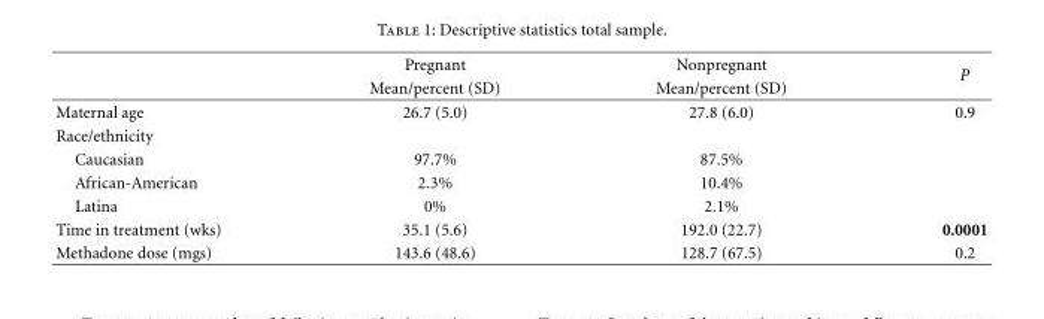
<table><thead><tr><td rowspan="2"></td><td rowspan="2">Pregnant Mean/percent (SD)</td><td rowspan="2">Nonpregnant Mean/percent (SD)</td><td rowspan="2">P</td></tr><tr></tr></thead><tbody><tr><td>Maternal age</td><td>26.7 (5.0)</td><td>27.8 (6.0)</td><td>0.9</td></tr><tr><td colspan="4">Race/ethnicity</td></tr><tr><td>Caucasian</td><td>97.7%</td><td>87.5%</td><td></td></tr><tr><td>African-American</td><td>2.3%</td><td>10.4%</td><td></td></tr><tr><td>Latina</td><td>0%</td><td>2.1%</td><td></td></tr><tr><td>Time in treatment (wks)</td><td>35.1 (5.6)</td><td>192.0 (22.7)</td><td>0.0001</td></tr><tr><td>Methadone dose (mgs)</td><td>143.6 (48.6)</td><td>128.7 (67.5)</td><td>0.2</td></tr></tbody></table>